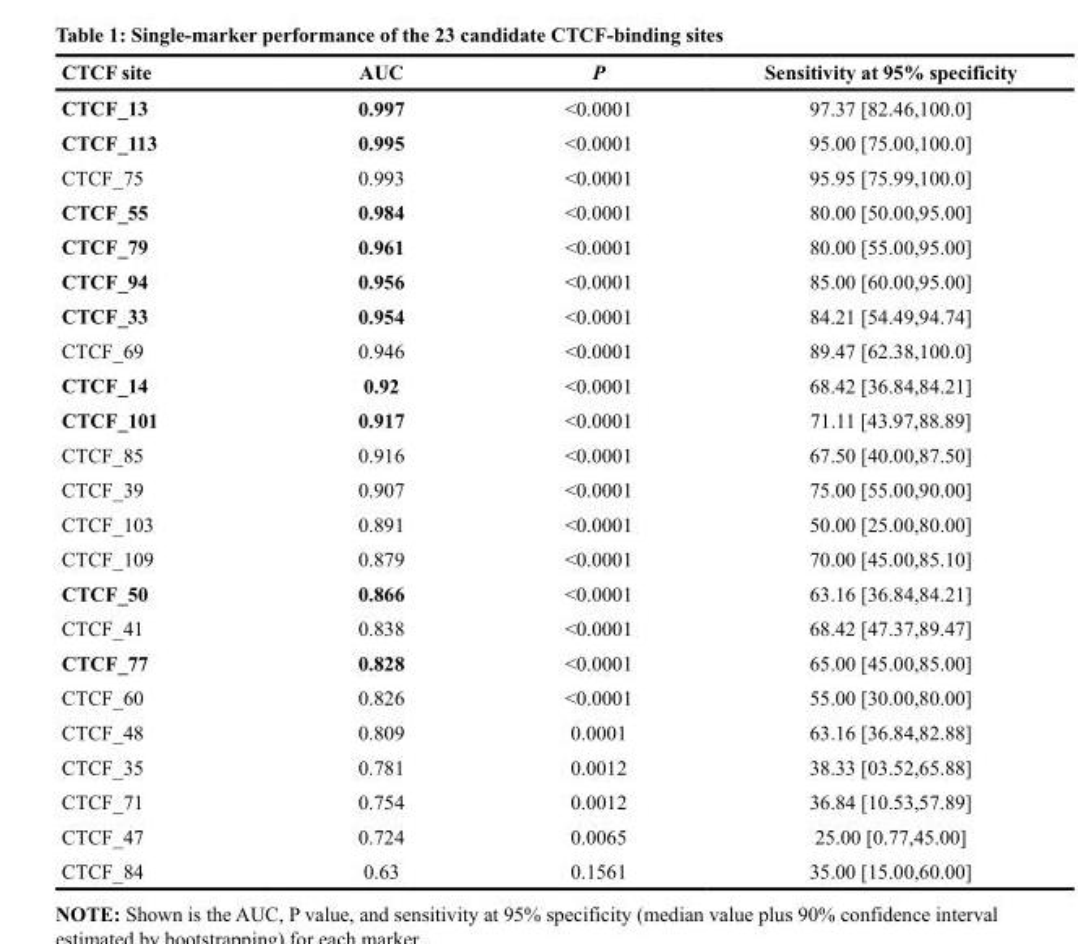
<table><thead><tr><td>CTCF site</td><td>AUC</td><td>P</td><td>Sensitivity at 95% specificity</td></tr></thead><tbody><tr><td>CTCF_13</td><td>0.997</td><td>&lt;0.0001</td><td>97.37 [82.46,100.0]</td></tr><tr><td>CTCF_113</td><td>0.995</td><td>&lt;0.0001</td><td>95.00 [75.00,100.0]</td></tr><tr><td>CTCF_75</td><td>0.993</td><td>&lt;0.0001</td><td>95.95 [75.99,100.0]</td></tr><tr><td>CTCF_55</td><td>0.984</td><td>&lt;0.0001</td><td>80.00 [50.00,95.00]</td></tr><tr><td>CTCF_79</td><td>0.961</td><td>&lt;0.0001</td><td>80.00 [55.00,95.00]</td></tr><tr><td>CTCF_94</td><td>0.956</td><td>&lt;0.0001</td><td>85.00 [60.00,95.00]</td></tr><tr><td>CTCF_33</td><td>0.954</td><td>&lt;0.0001</td><td>84.21 [54.49,94.74]</td></tr><tr><td>CTCF_69</td><td>0.946</td><td>&lt;0.0001</td><td>89.47 [62.38,100.0]</td></tr><tr><td>CTCF_14</td><td>0.92</td><td>&lt;0.0001</td><td>68.42 [36.84,84.21]</td></tr><tr><td>CTCF_101</td><td>0.917</td><td>&lt;0.0001</td><td>71.11 [43.97,88.89]</td></tr><tr><td>CTCF_85</td><td>0.916</td><td>&lt;0.0001</td><td>67.50 [40.00,87.50]</td></tr><tr><td>CTCF_39</td><td>0.907</td><td>&lt;0.0001</td><td>75.00 [55.00,90.00]</td></tr><tr><td>CTCF_103</td><td>0.891</td><td>&lt;0.0001</td><td>50.00 [25.00,80.00]</td></tr><tr><td>CTCF_109</td><td>0.879</td><td>&lt;0.0001</td><td>70.00 [45.00,85.10]</td></tr><tr><td>CTCF_50</td><td>0.866</td><td>&lt;0.0001</td><td>63.16 [36.84,84.21]</td></tr><tr><td>CTCF_41</td><td>0.838</td><td>&lt;0.0001</td><td>68.42 [47.37,89.47]</td></tr><tr><td>CTCF_77</td><td>0.828</td><td>&lt;0.0001</td><td>65.00 [45.00,85.00]</td></tr><tr><td>CTCF_60</td><td>0.826</td><td>&lt;0.0001</td><td>55.00 [30.00,80.00]</td></tr><tr><td>CTCF_48</td><td>0.809</td><td>0.0001</td><td>63.16 [36.84,82.88]</td></tr><tr><td>CTCF_35</td><td>0.781</td><td>0.0012</td><td>38.33 [03.52,65.88]</td></tr><tr><td>CTCF_71</td><td>0.754</td><td>0.0012</td><td>36.84 [10.53,57.89]</td></tr><tr><td>CTCF_47</td><td>0.724</td><td>0.0065</td><td>25.00 [0.77,45.00]</td></tr><tr><td>CTCF_84</td><td>0.63</td><td>0.1561</td><td>35.00 [15.00,60.00]</td></tr></tbody></table>